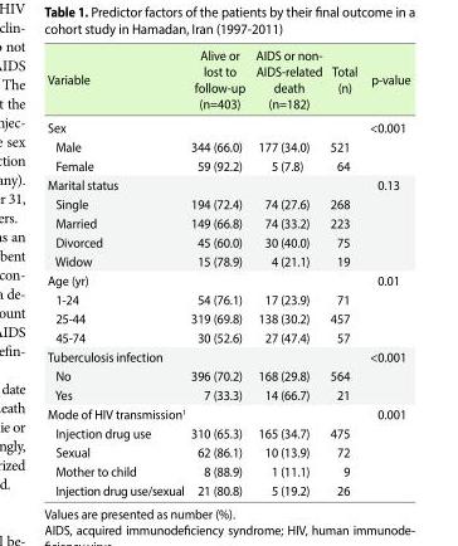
<table><thead><tr><td>Variable</td><td>Alive or lost to follow-up (n=403)</td><td>AIDS or non- AIDS-related death (n=182)</td><td>Total (n)</td><td>p-value</td></tr></thead><tbody><tr><td>Sex</td><td></td><td></td><td></td><td>&lt;0.001</td></tr><tr><td>Male</td><td>344 (66.0)</td><td>177 (34.0)</td><td>521</td><td></td></tr><tr><td>Female</td><td>59 (92.2)</td><td>5 (7.8)</td><td>64</td><td></td></tr><tr><td>Marital status</td><td></td><td></td><td></td><td>0.13</td></tr><tr><td>Single</td><td>194 (72.4)</td><td>74 (27.6)</td><td>268</td><td></td></tr><tr><td>Married</td><td>149 (66.8)</td><td>74 (33.2)</td><td>223</td><td></td></tr><tr><td>Divorced</td><td>45 (60.0)</td><td>30 (40.0)</td><td>75</td><td></td></tr><tr><td>Widow</td><td>15 (78.9)</td><td>4 (21.1)</td><td>19</td><td></td></tr><tr><td>Age (yr)</td><td></td><td></td><td></td><td>0.01</td></tr><tr><td>1-24</td><td>54 (76.1)</td><td>17 (23.9)</td><td>71</td><td></td></tr><tr><td>25-44</td><td>319 (69.8)</td><td>138 (30.2)</td><td>457</td><td></td></tr><tr><td>45-74</td><td>30 (52.6)</td><td>27 (47.4)</td><td>57</td><td></td></tr><tr><td>Tuberculosis infection</td><td></td><td></td><td></td><td>&lt;0.001</td></tr><tr><td>No</td><td>396 (70.2)</td><td>168 (29.8)</td><td>564</td><td></td></tr><tr><td>Yes</td><td>7 (33.3)</td><td>14 (66.7)</td><td>21</td><td></td></tr><tr><td>Mode of HIV transmission<sup>1</sup></td><td></td><td></td><td></td><td>0.001</td></tr><tr><td>Injection drug use</td><td>310 (65.3)</td><td>165 (34.7)</td><td>475</td><td></td></tr><tr><td>Sexual</td><td>62 (86.1)</td><td>10 (13.9)</td><td>72</td><td></td></tr><tr><td>Mother to child</td><td>8 (88.9)</td><td>1 (11.1)</td><td>9</td><td></td></tr><tr><td>Injection drug use/sexual</td><td>21 (80.8)</td><td>5 (19.2)</td><td>26</td><td></td></tr></tbody></table>